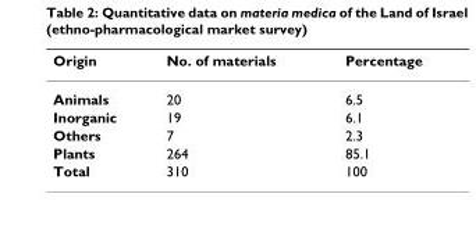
<table><thead><tr><td>Origin</td><td>No. of materials</td><td>Percentage</td></tr></thead><tbody><tr><td>Animals</td><td>20</td><td>6.5</td></tr><tr><td>Inorganic</td><td>19</td><td>6.1</td></tr><tr><td>Others</td><td>7</td><td>2.3</td></tr><tr><td>Plants</td><td>264</td><td>85.1</td></tr><tr><td>Total</td><td>310</td><td>100</td></tr></tbody></table>